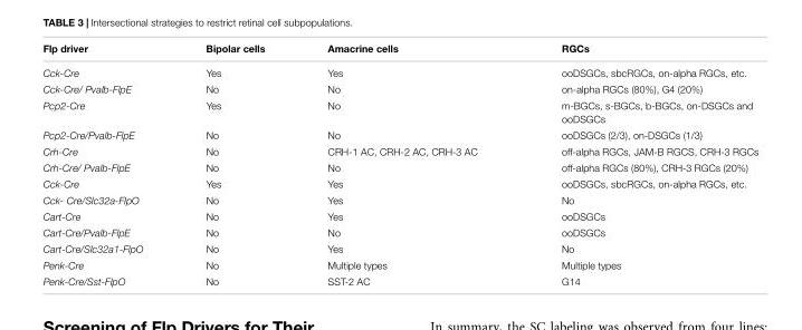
<table><thead><tr><td>Flp driver</td><td>Bipolar cells</td><td>Amacrine cells</td><td>RGCs</td></tr></thead><tbody><tr><td>Cck-Cre</td><td>Yes</td><td>Yes</td><td>ooDSGCs, sbcRGCs, on-alpha RGCs, etc.</td></tr><tr><td>Cck-Cre/ Pvalb-FlpE</td><td>No</td><td>No</td><td>on-alpha RGCs (80%), G4 (20%)</td></tr><tr><td>Pcp2-Cre</td><td>Yes</td><td>No</td><td>m-BGCs, s-BGCs, b-BGCs, on-DSGCs and ooDSGCs</td></tr><tr><td>Pcp2-Cre/Pvalb-FlpE</td><td>No</td><td>No</td><td>ooDSGCs (2/3), on-DSGCs (1/3)</td></tr><tr><td>Crh-Cre</td><td>No</td><td>CRH-1 AC, CRH-2 AC, CRH-3 AC</td><td>off-alpha RGCs, JAM-B RGCS, CRH-3 RGCs</td></tr><tr><td>Crh-Cre/ Pvalb-FlpE</td><td>No</td><td>No</td><td>off-alpha RGCs (80%), CRH-3 RGCs (20%)</td></tr><tr><td>Cck-Cre</td><td>Yes</td><td>Yes</td><td>ooDSGCs, sbcRGCs, on-alpha RGCs, etc.</td></tr><tr><td>Cck- Cre/Slc32a-FlpO</td><td>No</td><td>Yes</td><td>No</td></tr><tr><td>Cart-Cre</td><td>No</td><td>Yes</td><td>ooDSGCs</td></tr><tr><td>Cart-Cre/Pvalb-FlpE</td><td>No</td><td>No</td><td>ooDSGCs</td></tr><tr><td>Cart-Cre/Slc32a1-FlpO</td><td>No</td><td>Yes</td><td>No</td></tr><tr><td>Penk-Cre</td><td>No</td><td>Multiple types</td><td>Multiple types</td></tr><tr><td>Penk-Cre/Sst-FlpO</td><td>No</td><td>SST-2 AC</td><td>G14</td></tr></tbody></table>